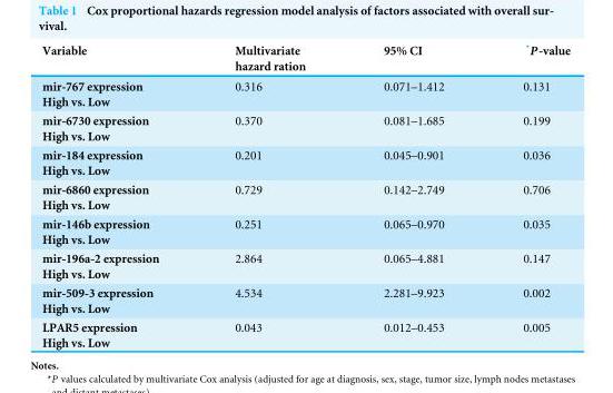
<table><thead><tr><td>Variable</td><td>Multivariate hazard ration</td><td>95% CI</td><td>*P-value</td></tr></thead><tbody><tr><td>mir-767 expression High vs. Low</td><td>0.316</td><td>0.071–1.412</td><td>0.131</td></tr><tr><td>mir-6730 expression High vs. Low</td><td>0.370</td><td>0.081–1.685</td><td>0.199</td></tr><tr><td>mir-184 expression High vs. Low</td><td>0.201</td><td>0.045–0.901</td><td>0.036</td></tr><tr><td>mir-6860 expression High vs. Low</td><td>0.729</td><td>0.142–2.749</td><td>0.706</td></tr><tr><td>mir-146b expression High vs. Low</td><td>0.251</td><td>0.065–0.970</td><td>0.035</td></tr><tr><td>mir-196a-2 expression High vs. Low</td><td>2.864</td><td>0.065–4.881</td><td>0.147</td></tr><tr><td>mir-509-3 expression High vs. Low</td><td>4.534</td><td>2.281–9.923</td><td>0.002</td></tr><tr><td>LPAR5 expression High vs. Low</td><td>0.043</td><td>0.012–0.453</td><td>0.005</td></tr></tbody></table>